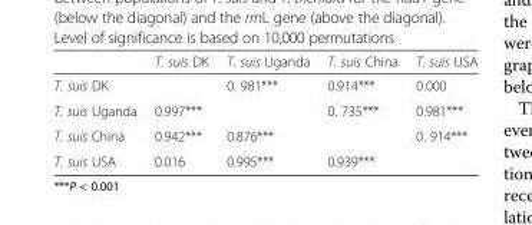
<table><thead><tr><td></td><td>T. suis DK</td><td>T. suis Uganda</td><td>T. suis China</td><td>T. suis USA</td></tr></thead><tbody><tr><td>T. suis DK</td><td></td><td>0. 981***</td><td>0.914***</td><td>0.000</td></tr><tr><td>T. suis Uganda</td><td>0.997***</td><td></td><td>0. 735***</td><td>0.981***</td></tr><tr><td>T. suis China</td><td>0.942***</td><td>0.876***</td><td></td><td>0. 914***</td></tr><tr><td>T. suis USA</td><td>0.016</td><td>0.995***</td><td>0.939***</td><td></td></tr></tbody></table>